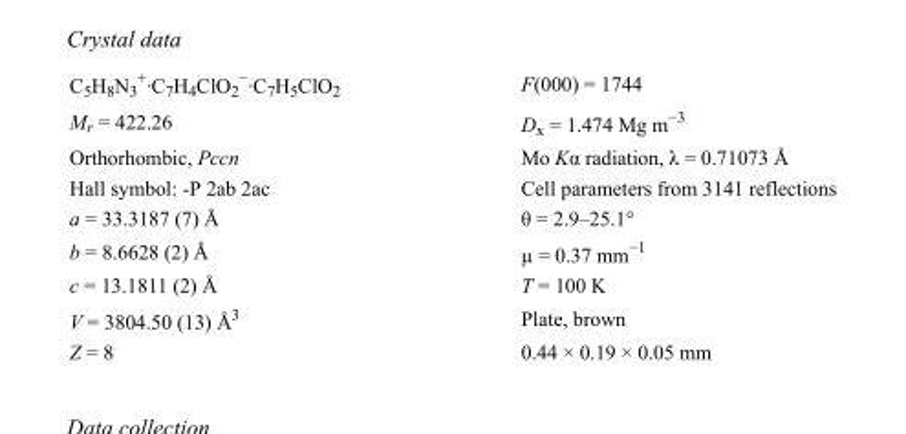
<table><tbody><tr><td>C<sub>5</sub>H<sub>8</sub>N<sub>3</sub> <sup>+</sup>·C<sub>7</sub>H<sub>4</sub>ClO<sub>2</sub> <sup>−</sup>·C<sub>7</sub>H<sub>5</sub>ClO<sub>2</sub></td><td>F(000) = 1744</td></tr><tr><td>M<sub>r</sub> = 422.26</td><td>D<sub>x</sub> = 1.474 Mg m<sup>−3</sup></td></tr><tr><td>Orthorhombic, Pccn</td><td>Mo Kα radiation, λ = 0.71073 Å</td></tr><tr><td>Hall symbol: -P 2ab 2ac</td><td>Cell parameters from 3141 reflections</td></tr><tr><td>a = 33.3187 (7) Å</td><td>θ = 2.9–25.1°</td></tr><tr><td>b = 8.6628 (2) Å</td><td>µ = 0.37 mm<sup>−1</sup></td></tr><tr><td>c = 13.1811 (2) Å</td><td>T = 100 K</td></tr><tr><td>V = 3804.50 (13) Å<sup>3</sup></td><td>Plate, brown</td></tr><tr><td>Z = 8</td><td>0.44 × 0.19 × 0.05 mm</td></tr></tbody></table>